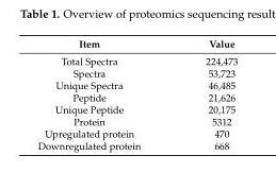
<table><thead><tr><td>Item</td><td>Value</td></tr></thead><tbody><tr><td>Total Spectra</td><td>224,473</td></tr><tr><td>Spectra</td><td>53,723</td></tr><tr><td>Unique Spectra</td><td>46,485</td></tr><tr><td>Peptide</td><td>21,626</td></tr><tr><td>Unique Peptide</td><td>20,175</td></tr><tr><td>Protein</td><td>5312</td></tr><tr><td>Upregulated protein</td><td>470</td></tr><tr><td>Downregulated protein</td><td>668</td></tr></tbody></table>